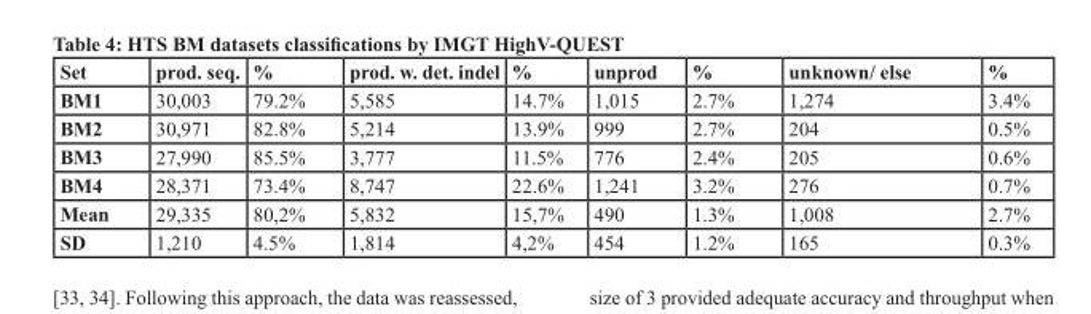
<table><thead><tr><td>Set</td><td>prod. seq.</td><td>%</td><td>prod. w. det. indel</td><td>%</td><td>unprod</td><td>%</td><td>unknown/ else</td><td>%</td></tr></thead><tbody><tr><td>BM1</td><td>30,003</td><td>79.2%</td><td>5,585</td><td>14.7%</td><td>1,015</td><td>2.7%</td><td>1,274</td><td>3.4%</td></tr><tr><td>BM2</td><td>30,971</td><td>82.8%</td><td>5,214</td><td>13.9%</td><td>999</td><td>2.7%</td><td>204</td><td>0.5%</td></tr><tr><td>BM3</td><td>27,990</td><td>85.5%</td><td>3,777</td><td>11.5%</td><td>776</td><td>2.4%</td><td>205</td><td>0.6%</td></tr><tr><td>BM4</td><td>28,371</td><td>73.4%</td><td>8,747</td><td>22.6%</td><td>1,241</td><td>3.2%</td><td>276</td><td>0.7%</td></tr><tr><td>Mean</td><td>29,335</td><td>80,2%</td><td>5,832</td><td>15,7%</td><td>490</td><td>1.3%</td><td>1,008</td><td>2.7%</td></tr><tr><td>SD</td><td>1,210</td><td>4.5%</td><td>1,814</td><td>4,2%</td><td>454</td><td>1.2%</td><td>165</td><td>0.3%</td></tr></tbody></table>